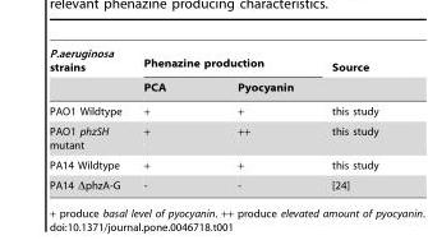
<table><thead><tr><td rowspan="2">P.aeruginosa strains</td><td colspan="2">Phenazine production</td><td rowspan="2">Source</td></tr><tr><td>PCA</td><td>Pyocyanin</td></tr></thead><tbody><tr><td>PAO1 Wildtype</td><td>+</td><td>+</td><td>this study</td></tr><tr><td>PAO1 phzSH mutant</td><td>+</td><td>++</td><td>this study</td></tr><tr><td>PA14 Wildtype</td><td>+</td><td>+</td><td>this study</td></tr><tr><td>PA14 ΔphzA-G</td><td>-</td><td>-</td><td>[24]</td></tr></tbody></table>